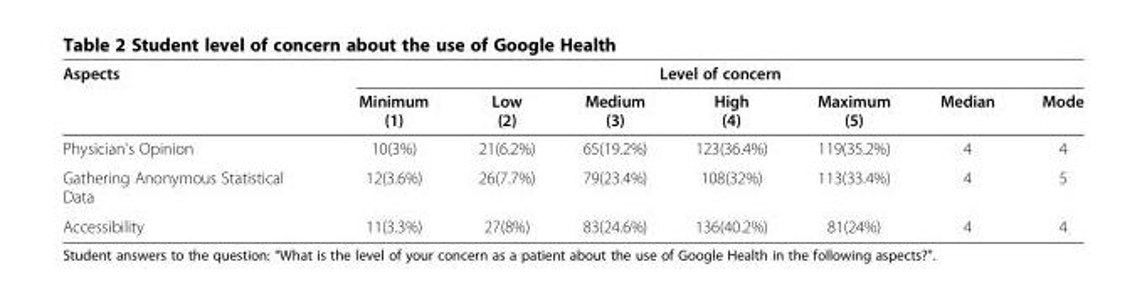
<table><thead><tr><td rowspan="2">Aspects</td><td colspan="7">Level of concern</td></tr><tr><td>Minimum (1)</td><td>Low (2)</td><td>Medium (3)</td><td>High (4)</td><td>Maximum (5)</td><td>Median</td><td>Mode</td></tr></thead><tbody><tr><td>Physician&#x27;s Opinion</td><td>10(3%)</td><td>21(6.2%)</td><td>65(19.2%)</td><td>123(36.4%)</td><td>119(35.2%)</td><td>4</td><td>4</td></tr><tr><td>Gathering Anonymous Statistical Data</td><td>12(3.6%)</td><td>26(7.7%)</td><td>79(23.4%)</td><td>108(32%)</td><td>113(33.4%)</td><td>4</td><td>5</td></tr><tr><td>Accessibility</td><td>11(3.3%)</td><td>27(8%)</td><td>83(24.6%)</td><td>136(40.2%)</td><td>81(24%)</td><td>4</td><td>4</td></tr></tbody></table>